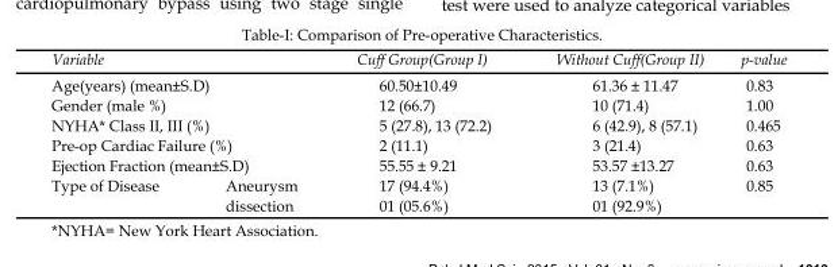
<table><thead><tr><td colspan="2">Variable</td><td>Cuff Group(Group I)</td><td>Without Cuff(Group II)</td><td>p-value</td></tr></thead><tbody><tr><td colspan="2">Age(years) (mean±S.D)</td><td>60.50±10.49</td><td>61.36 ± 11.47</td><td>0.83</td></tr><tr><td colspan="2">Gender (male %)</td><td>12 (66.7)</td><td>10 (71.4)</td><td>1.00</td></tr><tr><td colspan="2">NYHA* Class II, III (%)</td><td>5 (27.8), 13 (72.2)</td><td>6 (42.9), 8 (57.1)</td><td>0.465</td></tr><tr><td colspan="2">Pre-op Cardiac Failure (%)</td><td>2 (11.1)</td><td>3 (21.4)</td><td>0.63</td></tr><tr><td colspan="2">Ejection Fraction (mean±S.D)</td><td>55.55 ± 9.21</td><td>53.57 ±13.27</td><td>0.63</td></tr><tr><td rowspan="2">Type of Disease</td><td>Aneurysm</td><td>17 (94.4%)</td><td>13 (7.1%)</td><td>0.85</td></tr><tr><td>dissection</td><td>01 (05.6%)</td><td>01 (92.9%)</td><td></td></tr></tbody></table>